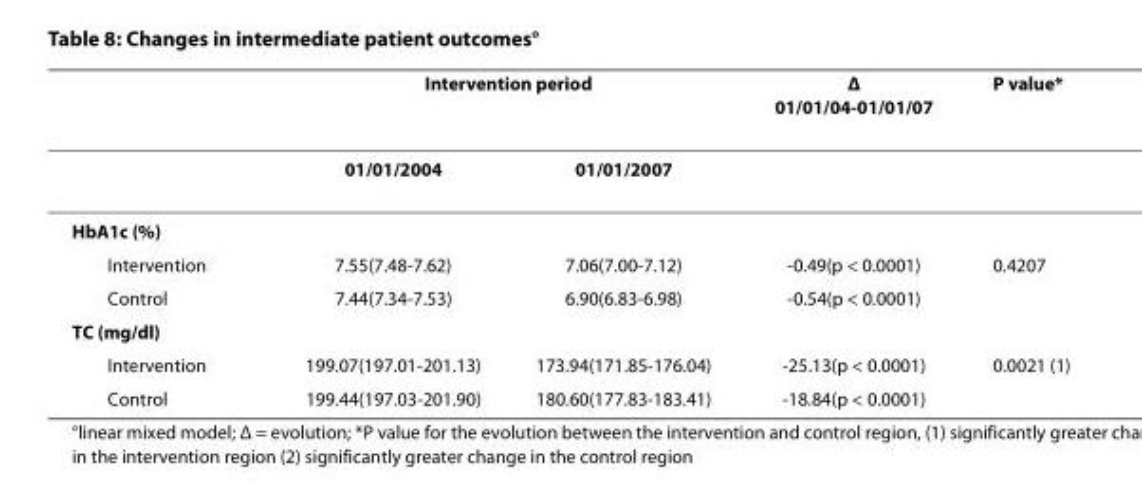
<table><thead><tr><td rowspan="2"></td><td colspan="2">Intervention period</td><td rowspan="2">Δ 01/01/04-01/01/07</td><td rowspan="2">P value*</td></tr><tr><td>01/01/2004</td><td>01/01/2007</td></tr></thead><tbody><tr><td colspan="5">HbA1c (%)</td></tr><tr><td>Intervention</td><td>7.55(7.48-7.62)</td><td>7.06(7.00-7.12)</td><td>-0.49(p &lt; 0.0001)</td><td>0.4207</td></tr><tr><td>Control</td><td>7.44(7.34-7.53)</td><td>6.90(6.83-6.98)</td><td>-0.54(p &lt; 0.0001)</td><td></td></tr><tr><td colspan="5">TC (mg/dl)</td></tr><tr><td>Intervention</td><td>199.07(197.01-201.13)</td><td>173.94(171.85-176.04)</td><td>-25.13(p &lt; 0.0001)</td><td>0.0021 (1)</td></tr><tr><td>Control</td><td>199.44(197.03-201.90)</td><td>180.60(177.83-183.41)</td><td>-18.84(p &lt; 0.0001)</td><td></td></tr></tbody></table>